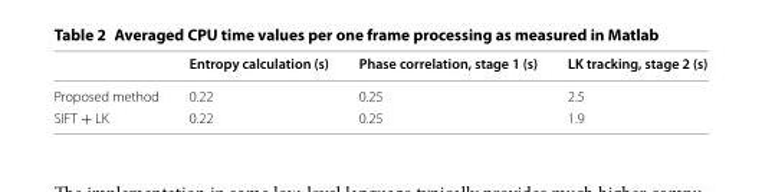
<table><thead><tr><td></td><td>Entropy calculation (s)</td><td>Phase correlation, stage 1 (s)</td><td>LK tracking, stage 2 (s)</td></tr></thead><tbody><tr><td>Proposed method</td><td>0.22</td><td>0.25</td><td>2.5</td></tr><tr><td>SIFT + LK</td><td>0.22</td><td>0.25</td><td>1.9</td></tr></tbody></table>